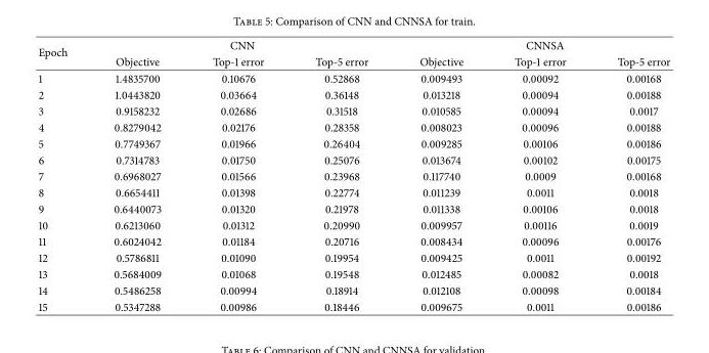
<table><thead><tr><td rowspan="2">Epoch</td><td colspan="3">CNN</td><td colspan="3">CNNSA</td></tr><tr><td>Objective</td><td>Top-1 error</td><td>Top-5 error</td><td>Objective</td><td>Top-1 error</td><td>Top-5 error</td></tr></thead><tbody><tr><td>1</td><td>1.4835700</td><td>0.10676</td><td>0.52868</td><td>0.009493</td><td>0.00092</td><td>0.00168</td></tr><tr><td>2</td><td>1.0443820</td><td>0.03664</td><td>0.36148</td><td>0.013218</td><td>0.00094</td><td>0.00188</td></tr><tr><td>3</td><td>0.9158232</td><td>0.02686</td><td>0.31518</td><td>0.010585</td><td>0.00094</td><td>0.0017</td></tr><tr><td>4</td><td>0.8279042</td><td>0.02176</td><td>0.28358</td><td>0.008023</td><td>0.00096</td><td>0.00188</td></tr><tr><td>5</td><td>0.7749367</td><td>0.01966</td><td>0.26404</td><td>0.009285</td><td>0.00106</td><td>0.00186</td></tr><tr><td>6</td><td>0.7314783</td><td>0.01750</td><td>0.25076</td><td>0.013674</td><td>0.00102</td><td>0.00175</td></tr><tr><td>7</td><td>0.6968027</td><td>0.01566</td><td>0.23968</td><td>0.117740</td><td>0.0009</td><td>0.00168</td></tr><tr><td>8</td><td>0.6654411</td><td>0.01398</td><td>0.22774</td><td>0.011239</td><td>0.0011</td><td>0.0018</td></tr><tr><td>9</td><td>0.6440073</td><td>0.01320</td><td>0.21978</td><td>0.011338</td><td>0.00106</td><td>0.0018</td></tr><tr><td>10</td><td>0.6213060</td><td>0.01312</td><td>0.20990</td><td>0.009957</td><td>0.00116</td><td>0.0019</td></tr><tr><td>11</td><td>0.6024042</td><td>0.01184</td><td>0.20716</td><td>0.008434</td><td>0.00096</td><td>0.00176</td></tr><tr><td>12</td><td>0.5786811</td><td>0.01090</td><td>0.19954</td><td>0.009425</td><td>0.0011</td><td>0.00192</td></tr><tr><td>13</td><td>0.5684009</td><td>0.01068</td><td>0.19548</td><td>0.012485</td><td>0.00082</td><td>0.0018</td></tr><tr><td>14</td><td>0.5486258</td><td>0.00994</td><td>0.18914</td><td>0.012108</td><td>0.00098</td><td>0.00184</td></tr><tr><td>15</td><td>0.5347288</td><td>0.00986</td><td>0.18446</td><td>0.009675</td><td>0.0011</td><td>0.00186</td></tr></tbody></table>